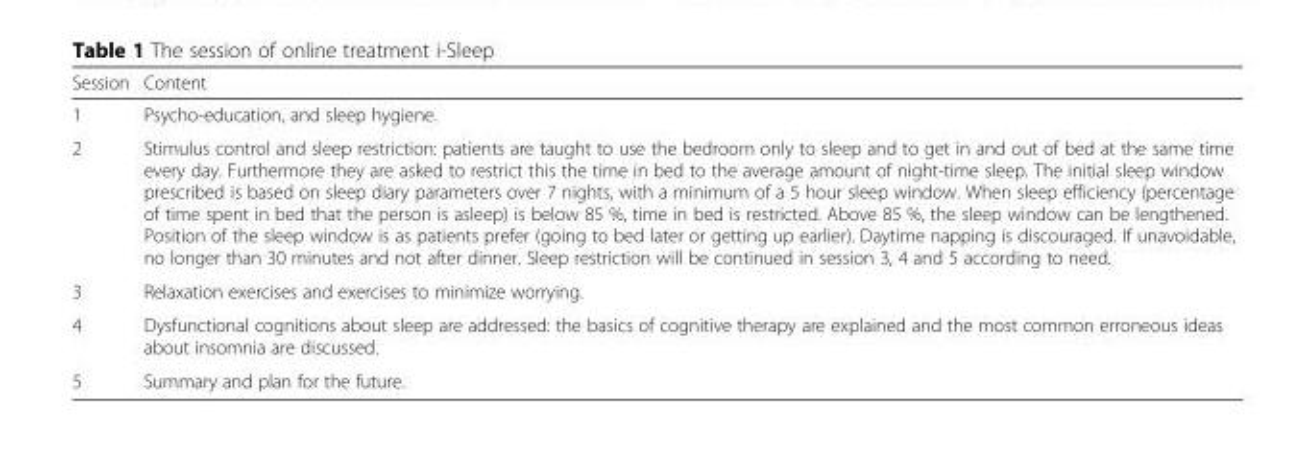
<table><thead><tr><td>Session</td><td>Content</td></tr></thead><tbody><tr><td>1</td><td>Psycho-education, and sleep hygiene.</td></tr><tr><td>2</td><td>Stimulus control and sleep restriction: patients are taught to use the bedroom only to sleep and to get in and out of bed at the same time every day. Furthermore they are asked to restrict this the time in bed to the average amount of night-time sleep. The initial sleep window prescribed is based on sleep diary parameters over 7 nights, with a minimum of a 5 hour sleep window. When sleep efficiency (percentage of time spent in bed that the person is asleep) is below 85 %, time in bed is restricted. Above 85 %, the sleep window can be lengthened. Position of the sleep window is as patients prefer (going to bed later or getting up earlier). Daytime napping is discouraged. If unavoidable, no longer than 30 minutes and not after dinner. Sleep restriction will be continued in session 3, 4 and 5 according to need.</td></tr><tr><td>3</td><td>Relaxation exercises and exercises to minimize worrying.</td></tr><tr><td>4</td><td>Dysfunctional cognitions about sleep are addressed: the basics of cognitive therapy are explained and the most common erroneous ideas about insomnia are discussed.</td></tr><tr><td>5</td><td>Summary and plan for the future.</td></tr></tbody></table>